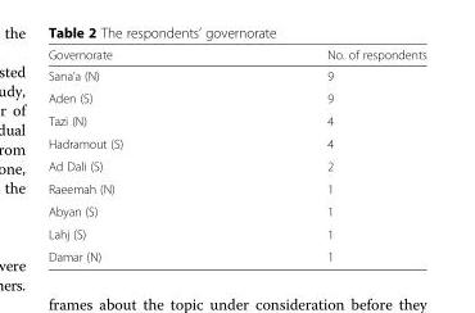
<table><thead><tr><td>Governorate</td><td>No. of respondents</td></tr></thead><tbody><tr><td>Sana’a (N)</td><td>9</td></tr><tr><td>Aden (S)</td><td>9</td></tr><tr><td>Tazi (N)</td><td>4</td></tr><tr><td>Hadramout (S)</td><td>4</td></tr><tr><td>Ad Dali (S)</td><td>2</td></tr><tr><td>Raeemah (N)</td><td>1</td></tr><tr><td>Abyan (S)</td><td>1</td></tr><tr><td>Lahj (S)</td><td>1</td></tr><tr><td>Damar (N)</td><td>1</td></tr></tbody></table>